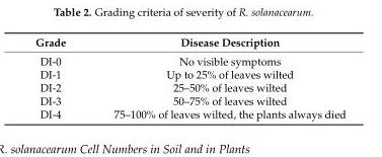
<table><thead><tr><td>Grade</td><td>Disease Description</td></tr></thead><tbody><tr><td>DI-0</td><td>No visible symptoms</td></tr><tr><td>DI-1</td><td>Up to 25% of leaves wilted</td></tr><tr><td>DI-2</td><td>25–50% of leaves wilted</td></tr><tr><td>DI-3</td><td>50–75% of leaves wilted</td></tr><tr><td>DI-4</td><td>75–100% of leaves wilted, the plants always died</td></tr></tbody></table>